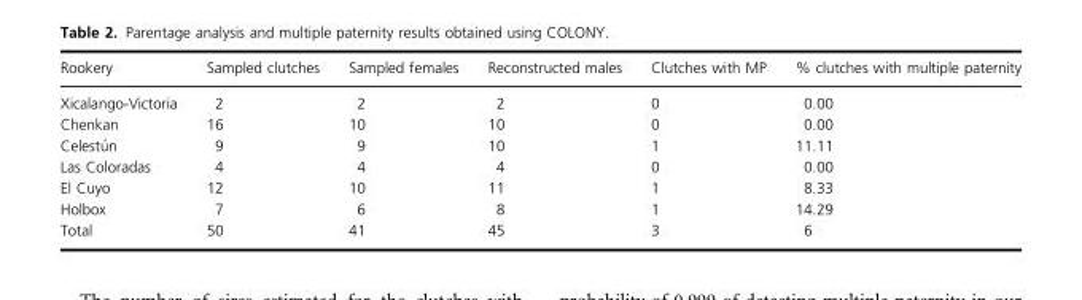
<table><thead><tr><td>Rookery</td><td>Sampled clutches</td><td>Sampled females</td><td>Reconstructed males</td><td>Clutches with MP</td><td>% clutches with multiple paternity</td></tr></thead><tbody><tr><td>Xicalango-Victoria</td><td>2</td><td>2</td><td>2</td><td>0</td><td>0.00</td></tr><tr><td>Chenkan</td><td>16</td><td>10</td><td>10</td><td>0</td><td>0.00</td></tr><tr><td>Celest�un</td><td>9</td><td>9</td><td>10</td><td>1</td><td>11.11</td></tr><tr><td>Las Coloradas</td><td>4</td><td>4</td><td>4</td><td>0</td><td>0.00</td></tr><tr><td>El Cuyo</td><td>12</td><td>10</td><td>11</td><td>1</td><td>8.33</td></tr><tr><td>Holbox</td><td>7</td><td>6</td><td>8</td><td>1</td><td>14.29</td></tr><tr><td>Total</td><td>50</td><td>41</td><td>45</td><td>3</td><td>6</td></tr></tbody></table>